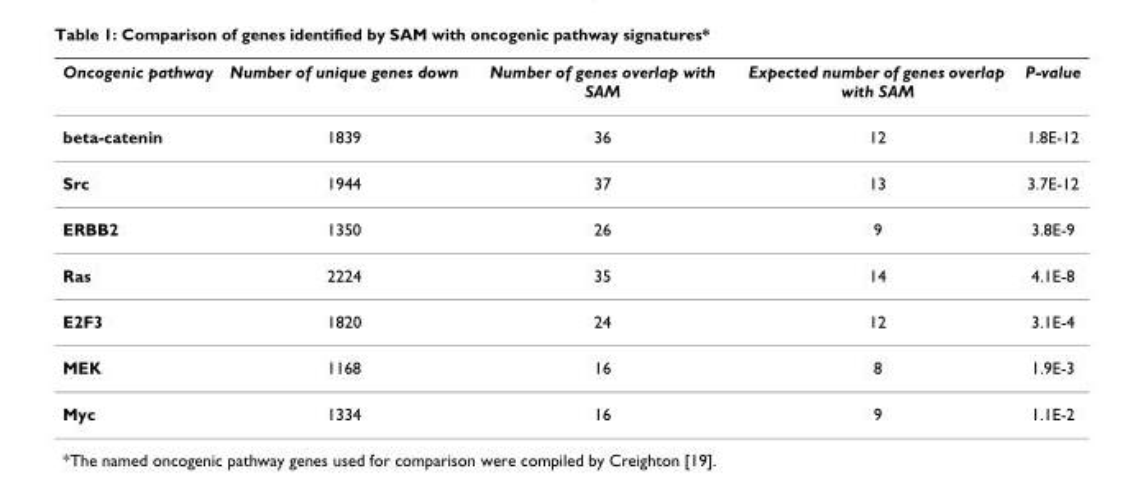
<table><thead><tr><td>Oncogenic pathway</td><td>Number of unique genes down</td><td>Number of genes overlap with SAM</td><td>Expected number of genes overlap with SAM</td><td>P-value</td></tr></thead><tbody><tr><td>beta-catenin</td><td>1839</td><td>36</td><td>12</td><td>1.8E-12</td></tr><tr><td>Src</td><td>1944</td><td>37</td><td>13</td><td>3.7E-12</td></tr><tr><td>ERBB2</td><td>1350</td><td>26</td><td>9</td><td>3.8E-9</td></tr><tr><td>Ras</td><td>2224</td><td>35</td><td>14</td><td>4.1E-8</td></tr><tr><td>E2F3</td><td>1820</td><td>24</td><td>12</td><td>3.1E-4</td></tr><tr><td>MEK</td><td>1168</td><td>16</td><td>8</td><td>1.9E-3</td></tr><tr><td>Myc</td><td>1334</td><td>16</td><td>9</td><td>1.1E-2</td></tr></tbody></table>